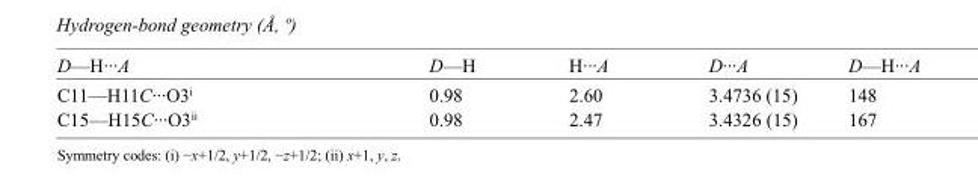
<table><tbody><tr><td>D—H···A</td><td>D—H</td><td>H···A</td><td>D···A</td><td>D—H···A</td></tr><tr><td>C11—H11C···O3<sup>i</sup></td><td>0.98</td><td>2.60</td><td>3.4736 (15)</td><td>148</td></tr><tr><td>C15—H15C···O3<sup>ii</sup></td><td>0.98</td><td>2.47</td><td>3.4326 (15)</td><td>167</td></tr></tbody></table>